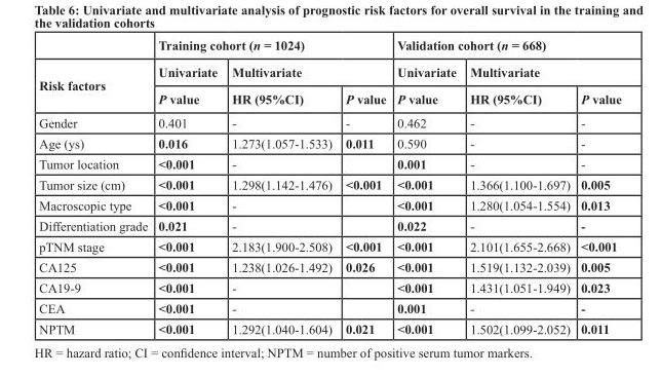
<table><thead><tr><td rowspan="3">risk factors</td><td colspan="3">training cohort (n = 1024)</td><td colspan="3">Validation cohort (n = 668)</td></tr><tr><td rowspan="2">Univariate P value</td><td colspan="2">Multivariate</td><td rowspan="2">Univariate P value</td><td colspan="2">Multivariate</td></tr><tr><td>Hr (95%cI)</td><td>P value</td><td>Hr (95%cI)</td><td>P value</td></tr></thead><tbody><tr><td>Gender</td><td>0.401</td><td>-</td><td>-</td><td>0.462</td><td>-</td><td>-</td></tr><tr><td>Age (ys)</td><td>0.016</td><td>1.273(1.057-1.533)</td><td>0.011</td><td>0.590</td><td>-</td><td>-</td></tr><tr><td>Tumor location</td><td>&lt;0.001</td><td>-</td><td></td><td>0.001</td><td>-</td><td>-</td></tr><tr><td>Tumor size (cm)</td><td>&lt;0.001</td><td>1.298(1.142-1.476)</td><td>&lt;0.001</td><td>&lt;0.001</td><td>1.366(1.100-1.697)</td><td>0.005</td></tr><tr><td>Macroscopic type</td><td>&lt;0.001</td><td>-</td><td></td><td>&lt;0.001</td><td>1.280(1.054-1.554)</td><td>0.013</td></tr><tr><td>Differentiation grade</td><td>0.021</td><td>-</td><td></td><td>0.022</td><td>-</td><td>-</td></tr><tr><td>pTNM stage</td><td>&lt;0.001</td><td>2.183(1.900-2.508)</td><td>&lt;0.001</td><td>&lt;0.001</td><td>2.101(1.655-2.668)</td><td>&lt;0.001</td></tr><tr><td>CA125</td><td>&lt;0.001</td><td>1.238(1.026-1.492)</td><td>0.026</td><td>&lt;0.001</td><td>1.519(1.132-2.039)</td><td>0.005</td></tr><tr><td>CA19-9</td><td>&lt;0.001</td><td>-</td><td></td><td>&lt;0.001</td><td>1.431(1.051-1.949)</td><td>0.023</td></tr><tr><td>CEA</td><td>&lt;0.001</td><td>-</td><td></td><td>0.001</td><td>-</td><td>-</td></tr><tr><td>NPTM</td><td>&lt;0.001</td><td>1.292(1.040-1.604)</td><td>0.021</td><td>&lt;0.001</td><td>1.502(1.099-2.052)</td><td>0.011</td></tr></tbody></table>